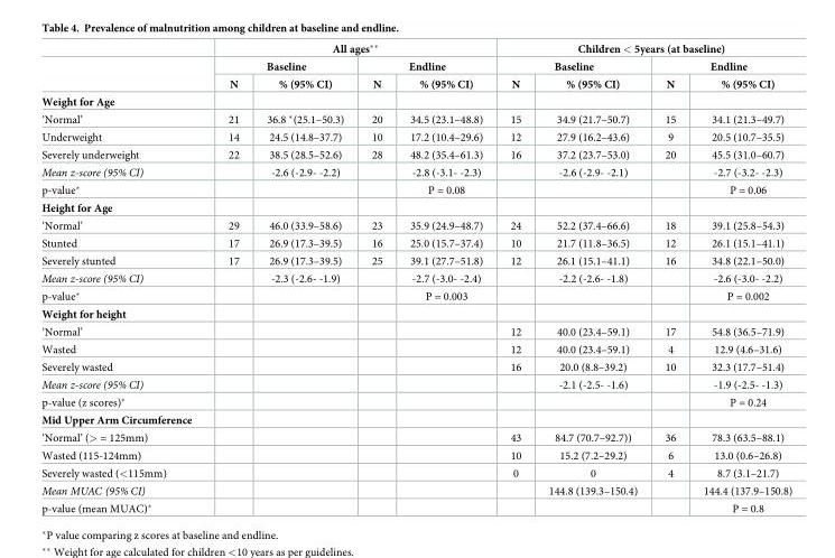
<table><thead><tr><td rowspan="3"></td><td colspan="4">All ages**</td><td colspan="4">Children &lt; 5years (at baseline)</td></tr><tr><td colspan="2">Baseline</td><td colspan="2">Endline</td><td colspan="2">Baseline</td><td colspan="2">Endline</td></tr><tr><td>N</td><td>% (95% CI)</td><td>N</td><td>% (95% CI)</td><td>N</td><td>% (95% CI)</td><td>N</td><td>% (95% CI)</td></tr></thead><tbody><tr><td colspan="9">Weight for Age</td></tr><tr><td>‘Normal’</td><td>21</td><td>36.8 *(25.1–50.3)</td><td>20</td><td>34.5 (23.1–48.8)</td><td>15</td><td>34.9 (21.7–50.7)</td><td>15</td><td>34.1 (21.3–49.7)</td></tr><tr><td>Underweight</td><td>14</td><td>24.5 (14.8–37.7)</td><td>10</td><td>17.2 (10.4–29.6)</td><td>12</td><td>27.9 (16.2–43.6)</td><td>9</td><td>20.5 (10.7–35.5)</td></tr><tr><td>Severely underweight</td><td>22</td><td>38.5 (28.5–52.6)</td><td>28</td><td>48.2 (35.4–61.3)</td><td>16</td><td>37.2 (23.7–53.0)</td><td>20</td><td>45.5 (31.0–60.7)</td></tr><tr><td>Mean z-score (95% CI)</td><td></td><td>-2.6 (-2.9- -2.2)</td><td></td><td>-2.8 (-3.1- -2.3)</td><td></td><td>-2.6 (-2.9- -2.1)</td><td></td><td>-2.7 (-3.2- -2.3)</td></tr><tr><td>p-value*</td><td></td><td></td><td></td><td>P = 0.08</td><td></td><td></td><td></td><td>P = 0.06</td></tr><tr><td colspan="9">Height for Age</td></tr><tr><td>‘Normal’</td><td>29</td><td>46.0 (33.9–58.6)</td><td>23</td><td>35.9 (24.9–48.7)</td><td>24</td><td>52.2 (37.4–66.6)</td><td>18</td><td>39.1 (25.8–54.3)</td></tr><tr><td>Stunted</td><td>17</td><td>26.9 (17.3–39.5)</td><td>16</td><td>25.0 (15.7–37.4)</td><td>10</td><td>21.7 (11.8–36.5)</td><td>12</td><td>26.1 (15.1–41.1)</td></tr><tr><td>Severely stunted</td><td>17</td><td>26.9 (17.3–39.5)</td><td>25</td><td>39.1 (27.7–51.8)</td><td>12</td><td>26.1 (15.1–41.1)</td><td>16</td><td>34.8 (22.1–50.0)</td></tr><tr><td>Mean z-score (95% CI)</td><td></td><td>-2.3 (-2.6- -1.9)</td><td></td><td>-2.7 (-3.0- -2.4)</td><td></td><td>-2.2 (-2.6- -1.8)</td><td></td><td>-2.6 (-3.0- -2.2)</td></tr><tr><td>p-value*</td><td></td><td></td><td></td><td>P = 0.003</td><td></td><td></td><td></td><td>P = 0.002</td></tr><tr><td colspan="9">Weight for height</td></tr><tr><td>‘Normal’</td><td></td><td></td><td></td><td></td><td>12</td><td>40.0 (23.4–59.1)</td><td>17</td><td>54.8 (36.5–71.9)</td></tr><tr><td>Wasted</td><td></td><td></td><td></td><td></td><td>12</td><td>40.0 (23.4–59.1)</td><td>4</td><td>12.9 (4.6–31.6)</td></tr><tr><td>Severely wasted</td><td></td><td></td><td></td><td></td><td>16</td><td>20.0 (8.8–39.2)</td><td>10</td><td>32.3 (17.7–51.4)</td></tr><tr><td>Mean z-score (95% CI)</td><td></td><td></td><td></td><td></td><td></td><td>-2.1 (-2.5- -1.6)</td><td></td><td>-1.9 (-2.5- -1.3)</td></tr><tr><td>p-value (z scores)*</td><td></td><td></td><td></td><td></td><td></td><td></td><td></td><td>P = 0.24</td></tr><tr><td colspan="9">Mid Upper Arm Circumference</td></tr><tr><td>‘Normal’ (&gt; = 125mm)</td><td></td><td></td><td></td><td></td><td>43</td><td>84.7 (70.7–92.7))</td><td>36</td><td>78.3 (63.5–88.1)</td></tr><tr><td>Wasted (115-124mm)</td><td></td><td></td><td></td><td></td><td>10</td><td>15.2 (7.2–29.2)</td><td>6</td><td>13.0 (0.6–26.8)</td></tr><tr><td>Severely wasted (&lt;115mm)</td><td></td><td></td><td></td><td></td><td>0</td><td>0</td><td>4</td><td>8.7 (3.1–21.7)</td></tr><tr><td>Mean MUAC (95% CI)</td><td></td><td></td><td></td><td></td><td></td><td>144.8 (139.3–150.4)</td><td></td><td>144.4 (137.9–150.8)</td></tr><tr><td>p-value (mean MUAC)*</td><td></td><td></td><td></td><td></td><td></td><td></td><td></td><td>P = 0.8</td></tr></tbody></table>